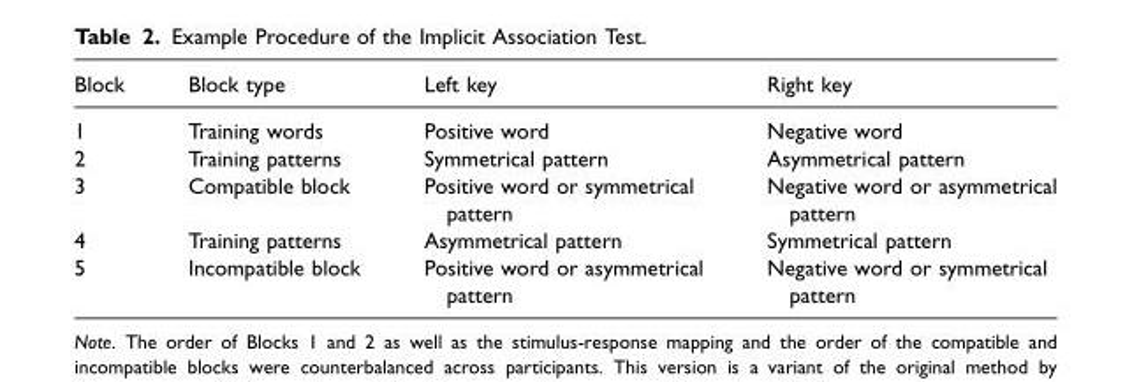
<table><thead><tr><td>Block</td><td>Block type</td><td>Left key</td><td>Right key</td></tr></thead><tbody><tr><td>1</td><td>Training words</td><td>Positive word</td><td>Negative word</td></tr><tr><td>2</td><td>Training patterns</td><td>Symmetrical pattern</td><td>Asymmetrical pattern</td></tr><tr><td>3</td><td>Compatible block</td><td>Positive word or symmetrical pattern</td><td>Negative word or asymmetrical pattern</td></tr><tr><td>4</td><td>Training patterns</td><td>Asymmetrical pattern</td><td>Symmetrical pattern</td></tr><tr><td>5</td><td>Incompatible block</td><td>Positive word or asymmetrical pattern</td><td>Negative word or symmetrical pattern</td></tr></tbody></table>